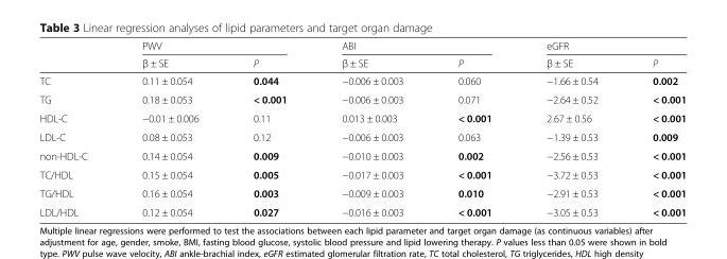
<table><thead><tr><td rowspan="2"></td><td colspan="2">PWV</td><td colspan="2">ABI</td><td colspan="2">eGFR</td></tr><tr><td>β ± SE</td><td>P</td><td>β ± SE</td><td>P</td><td>β ± SE</td><td>P</td></tr></thead><tbody><tr><td>TC</td><td>0.11 ± 0.054</td><td>0.044</td><td>−0.006 ± 0.003</td><td>0.060</td><td>−1.66 ± 0.54</td><td>0.002</td></tr><tr><td>TG</td><td>0.18 ± 0.053</td><td>&lt; 0.001</td><td>−0.006 ± 0.003</td><td>0.071</td><td>−2.64 ± 0.52</td><td>&lt; 0.001</td></tr><tr><td>HDL-C</td><td>−0.01 ± 0.006</td><td>0.11</td><td>0.013 ± 0.003</td><td>&lt; 0.001</td><td>2.67 ± 0.56</td><td>&lt; 0.001</td></tr><tr><td>LDL-C</td><td>0.08 ± 0.053</td><td>0.12</td><td>−0.006 ± 0.003</td><td>0.063</td><td>−1.39 ± 0.53</td><td>0.009</td></tr><tr><td>non-HDL-C</td><td>0.14 ± 0.054</td><td>0.009</td><td>−0.010 ± 0.003</td><td>0.002</td><td>−2.56 ± 0.53</td><td>&lt; 0.001</td></tr><tr><td>TC/HDL</td><td>0.15 ± 0.054</td><td>0.005</td><td>−0.017 ± 0.003</td><td>&lt; 0.001</td><td>−3.72 ± 0.53</td><td>&lt; 0.001</td></tr><tr><td>TG/HDL</td><td>0.16 ± 0.054</td><td>0.003</td><td>−0.009 ± 0.003</td><td>0.010</td><td>−2.91 ± 0.53</td><td>&lt; 0.001</td></tr><tr><td>LDL/HDL</td><td>0.12 ± 0.054</td><td>0.027</td><td>−0.016 ± 0.003</td><td>&lt; 0.001</td><td>−3.05 ± 0.53</td><td>&lt; 0.001</td></tr></tbody></table>